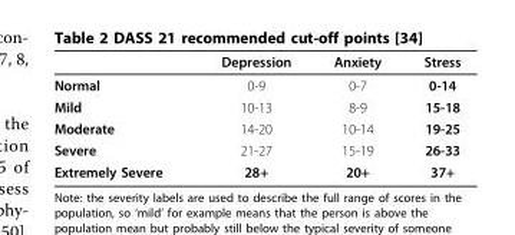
<table><thead><tr><td></td><td>Depression</td><td>Anxiety</td><td>Stress</td></tr></thead><tbody><tr><td>Normal</td><td>0-9</td><td>0-7</td><td>0-14</td></tr><tr><td>Mild</td><td>10-13</td><td>8-9</td><td>15-18</td></tr><tr><td>Moderate</td><td>14-20</td><td>10-14</td><td>19-25</td></tr><tr><td>Severe</td><td>21-27</td><td>15-19</td><td>26-33</td></tr><tr><td>Extremely Severe</td><td>28+</td><td>20+</td><td>37+</td></tr></tbody></table>